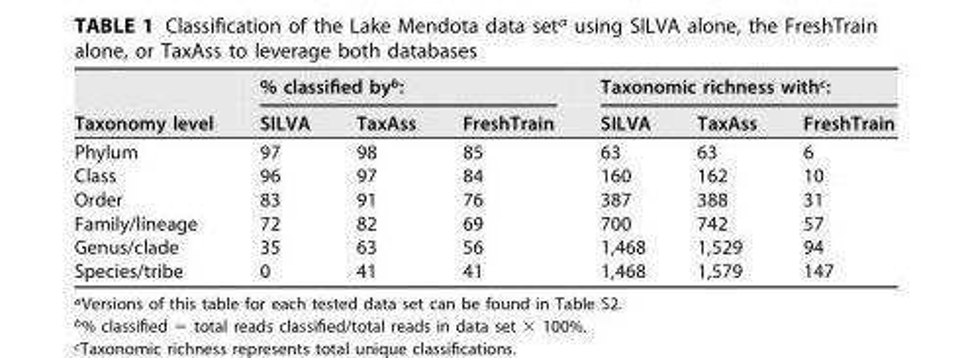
<table><thead><tr><td rowspan="2">Taxonomy level</td><td colspan="3">% classified by<sup>b</sup>:</td><td colspan="3">Taxonomic richness with<sup>c</sup>:</td></tr><tr><td>SILVA</td><td>TaxAss</td><td>FreshTrain</td><td>SILVA</td><td>TaxAss</td><td>FreshTrain</td></tr></thead><tbody><tr><td>Phylum</td><td>97</td><td>98</td><td>85</td><td>63</td><td>63</td><td>6</td></tr><tr><td>Class</td><td>96</td><td>97</td><td>84</td><td>160</td><td>162</td><td>10</td></tr><tr><td>Order</td><td>83</td><td>91</td><td>76</td><td>387</td><td>388</td><td>31</td></tr><tr><td>Family/lineage</td><td>72</td><td>82</td><td>69</td><td>700</td><td>742</td><td>57</td></tr><tr><td>Genus/clade</td><td>35</td><td>63</td><td>56</td><td>1,468</td><td>1,529</td><td>94</td></tr><tr><td>Species/tribe</td><td>0</td><td>41</td><td>41</td><td>1,468</td><td>1,579</td><td>147</td></tr></tbody></table>